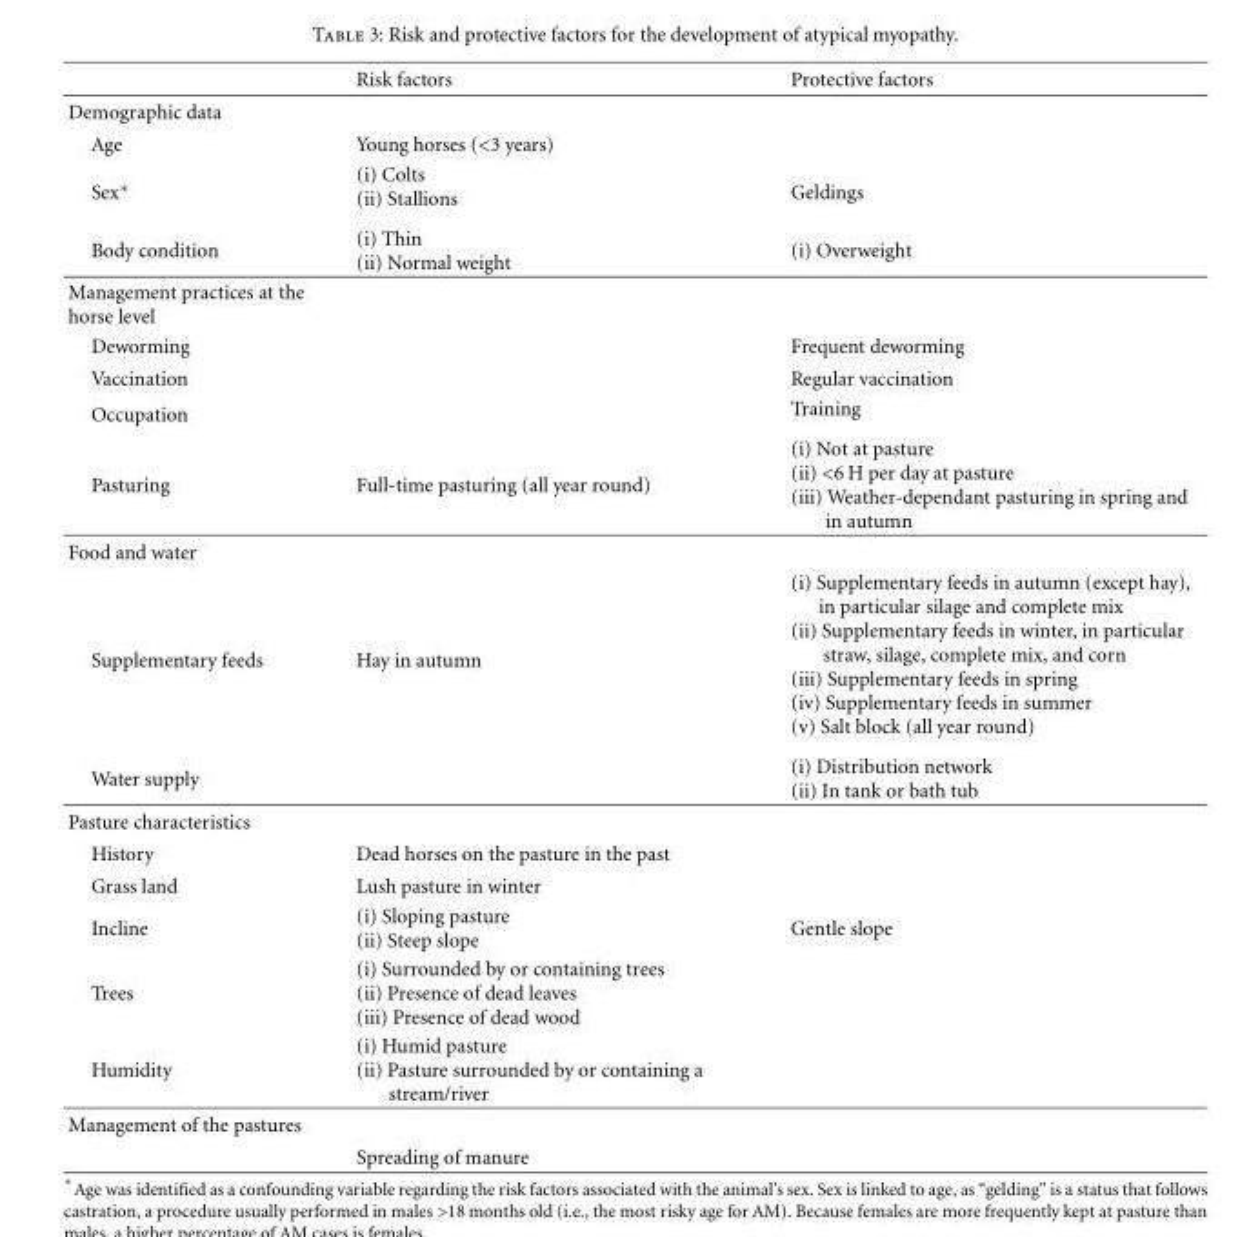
<table><thead><tr><td></td><td>Risk factors</td><td>Protective factors</td></tr></thead><tbody><tr><td colspan="3">Demographic data</td></tr><tr><td>Age</td><td>Young horses (&lt;3 years)</td><td></td></tr><tr><td>Sex∗</td><td>(i) Colts (ii) Stallions</td><td>Geldings</td></tr><tr><td>Body condition</td><td>(i) Thin (ii) Normal weight</td><td>(i) Overweight</td></tr><tr><td colspan="3">Management practices at the horse level</td></tr><tr><td>Deworming</td><td></td><td>Frequent deworming</td></tr><tr><td>Vaccination</td><td></td><td>Regular vaccination</td></tr><tr><td>Occupation</td><td></td><td>Training</td></tr><tr><td>Pasturing</td><td>Full-time pasturing (all year round)</td><td>(i) Not at pasture (ii) &lt;6 H per day at pasture (iii) Weather-dependant pasturing in spring and in autumn</td></tr><tr><td colspan="3">Food and water</td></tr><tr><td>Supplementary feeds</td><td>Hay in autumn</td><td>(i) Supplementary feeds in autumn (except hay), in particular silage and complete mix (ii) Supplementary feeds in winter, in particular straw, silage, complete mix, and corn (iii) Supplementary feeds in spring (iv) Supplementary feeds in summer (v) Salt block (all year round)</td></tr><tr><td>Water supply</td><td></td><td>(i) Distribution network (ii) In tank or bath tub</td></tr><tr><td colspan="3">Pasture characteristics</td></tr><tr><td>History</td><td>Dead horses on the pasture in the past</td><td></td></tr><tr><td>Grass land</td><td>Lush pasture in winter</td><td></td></tr><tr><td>Incline</td><td>(i) Sloping pasture (ii) Steep slope</td><td>Gentle slope</td></tr><tr><td>Trees</td><td>(i) Surrounded by or containing trees (ii) Presence of dead leaves (iii) Presence of dead wood</td><td></td></tr><tr><td>Humidity</td><td>(i) Humid pasture (ii) Pasture surrounded by or containing a stream/river</td><td></td></tr><tr><td colspan="3">Management of the pastures</td></tr><tr><td></td><td>Spreading of manure</td><td></td></tr></tbody></table>